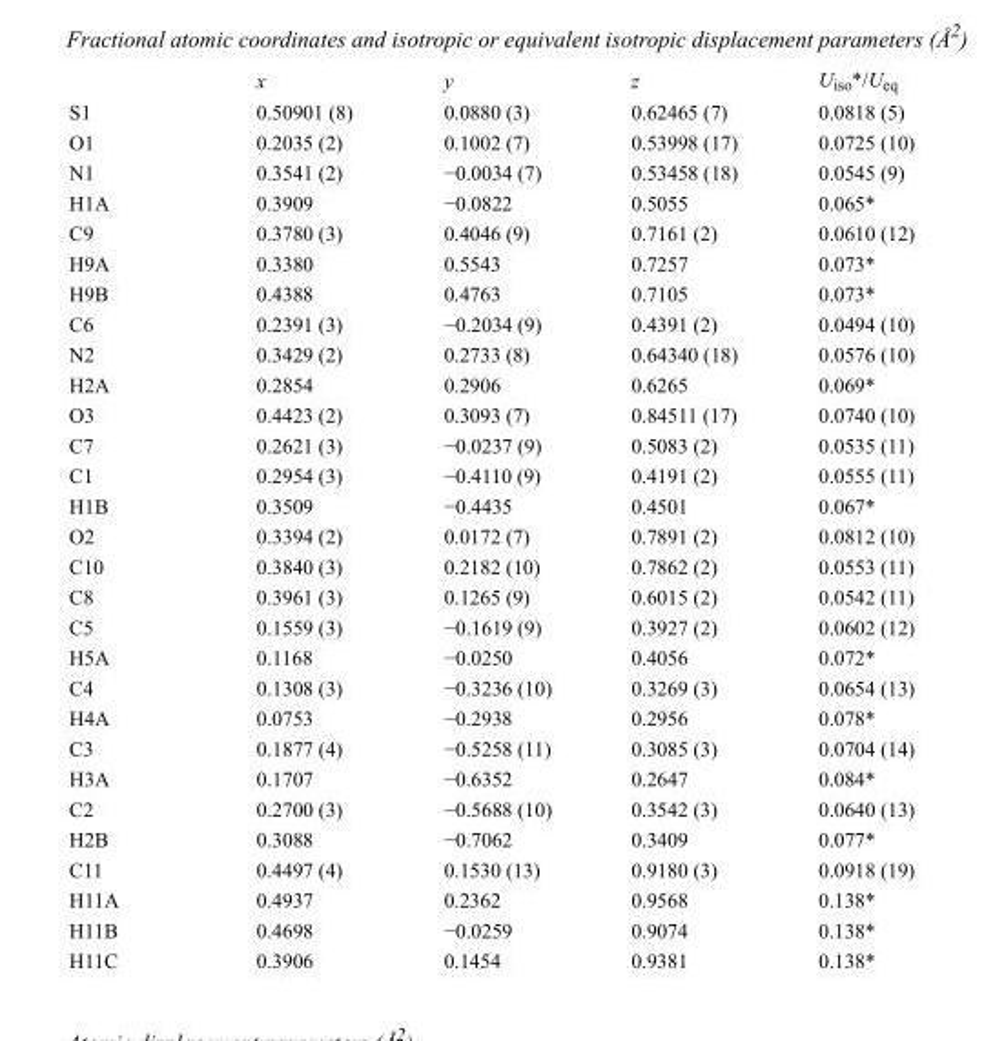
<table><thead><tr><td></td><td>x</td><td>y</td><td>z</td><td>U<sub>iso</sub>*/U<sub>eq</sub></td></tr></thead><tbody><tr><td>S1</td><td>0.50901 (8)</td><td>0.0880 (3)</td><td>0.62465 (7)</td><td>0.0818 (5)</td></tr><tr><td>O1</td><td>0.2035 (2)</td><td>0.1002 (7)</td><td>0.53998 (17)</td><td>0.0725 (10)</td></tr><tr><td>N1</td><td>0.3541 (2)</td><td>−0.0034 (7)</td><td>0.53458 (18)</td><td>0.0545 (9)</td></tr><tr><td>H1A</td><td>0.3909</td><td>−0.0822</td><td>0.5055</td><td>0.065*</td></tr><tr><td>C9</td><td>0.3780 (3)</td><td>0.4046 (9)</td><td>0.7161 (2)</td><td>0.0610 (12)</td></tr><tr><td>H9A</td><td>0.3380</td><td>0.5543</td><td>0.7257</td><td>0.073*</td></tr><tr><td>H9B</td><td>0.4388</td><td>0.4763</td><td>0.7105</td><td>0.073*</td></tr><tr><td>C6</td><td>0.2391 (3)</td><td>−0.2034 (9)</td><td>0.4391 (2)</td><td>0.0494 (10)</td></tr><tr><td>N2</td><td>0.3429 (2)</td><td>0.2733 (8)</td><td>0.64340 (18)</td><td>0.0576 (10)</td></tr><tr><td>H2A</td><td>0.2854</td><td>0.2906</td><td>0.6265</td><td>0.069*</td></tr><tr><td>O3</td><td>0.4423 (2)</td><td>0.3093 (7)</td><td>0.84511 (17)</td><td>0.0740 (10)</td></tr><tr><td>C7</td><td>0.2621 (3)</td><td>−0.0237 (9)</td><td>0.5083 (2)</td><td>0.0535 (11)</td></tr><tr><td>C1</td><td>0.2954 (3)</td><td>−0.4110 (9)</td><td>0.4191 (2)</td><td>0.0555 (11)</td></tr><tr><td>H1B</td><td>0.3509</td><td>−0.4435</td><td>0.4501</td><td>0.067*</td></tr><tr><td>O2</td><td>0.3394 (2)</td><td>0.0172 (7)</td><td>0.7891 (2)</td><td>0.0812 (10)</td></tr><tr><td>C10</td><td>0.3840 (3)</td><td>0.2182 (10)</td><td>0.7862 (2)</td><td>0.0553 (11)</td></tr><tr><td>C8</td><td>0.3961 (3)</td><td>0.1265 (9)</td><td>0.6015 (2)</td><td>0.0542 (11)</td></tr><tr><td>C5</td><td>0.1559 (3)</td><td>−0.1619 (9)</td><td>0.3927 (2)</td><td>0.0602 (12)</td></tr><tr><td>H5A</td><td>0.1168</td><td>−0.0250</td><td>0.4056</td><td>0.072*</td></tr><tr><td>C4</td><td>0.1308 (3)</td><td>−0.3236 (10)</td><td>0.3269 (3)</td><td>0.0654 (13)</td></tr><tr><td>H4A</td><td>0.0753</td><td>−0.2938</td><td>0.2956</td><td>0.078*</td></tr><tr><td>C3</td><td>0.1877 (4)</td><td>−0.5258 (11)</td><td>0.3085 (3)</td><td>0.0704 (14)</td></tr><tr><td>H3A</td><td>0.1707</td><td>−0.6352</td><td>0.2647</td><td>0.084*</td></tr><tr><td>C2</td><td>0.2700 (3)</td><td>−0.5688 (10)</td><td>0.3542 (3)</td><td>0.0640 (13)</td></tr><tr><td>H2B</td><td>0.3088</td><td>−0.7062</td><td>0.3409</td><td>0.077*</td></tr><tr><td>C11</td><td>0.4497 (4)</td><td>0.1530 (13)</td><td>0.9180 (3)</td><td>0.0918 (19)</td></tr><tr><td>H11A</td><td>0.4937</td><td>0.2362</td><td>0.9568</td><td>0.138*</td></tr><tr><td>H11B</td><td>0.4698</td><td>−0.0259</td><td>0.9074</td><td>0.138*</td></tr><tr><td>H11C</td><td>0.3906</td><td>0.1454</td><td>0.9381</td><td>0.138*</td></tr></tbody></table>